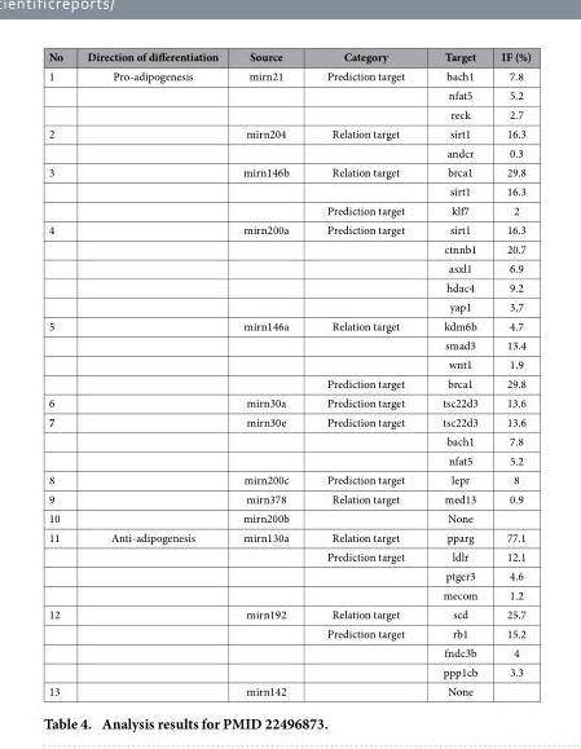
<table><thead><tr><td>No</td><td>Direction of differentiation</td><td>Source</td><td>Category</td><td>Target</td><td>IF (%)</td></tr></thead><tbody><tr><td rowspan="3">1</td><td>Pro-adipogenesis</td><td>mirn21</td><td>Prediction target</td><td>bach1</td><td>7.8</td></tr><tr><td></td><td></td><td></td><td>nfat5</td><td>5.2</td></tr><tr><td></td><td></td><td></td><td>reck</td><td>2.7</td></tr><tr><td rowspan="2">2</td><td></td><td>mirn204</td><td>Relation target</td><td>sirt1</td><td>16.3</td></tr><tr><td></td><td></td><td></td><td>andcr</td><td>0.3</td></tr><tr><td rowspan="3">3</td><td></td><td>mirn146b</td><td>Relation target</td><td>brca1</td><td>29.8</td></tr><tr><td></td><td></td><td></td><td>sirt1</td><td>16.3</td></tr><tr><td></td><td></td><td>Prediction target</td><td>klf7</td><td>2</td></tr><tr><td rowspan="5">4</td><td></td><td>mirn200a</td><td>Prediction target</td><td>sirt1</td><td>16.3</td></tr><tr><td></td><td></td><td></td><td>ctnnb1</td><td>20.7</td></tr><tr><td></td><td></td><td></td><td>asxl1</td><td>6.9</td></tr><tr><td></td><td></td><td></td><td>hdac4</td><td>9.2</td></tr><tr><td></td><td></td><td></td><td>yap1</td><td>3,7</td></tr><tr><td rowspan="4">5</td><td></td><td>mirn146a</td><td>Relation target</td><td>kdm6b</td><td>4.7</td></tr><tr><td></td><td></td><td></td><td>smad3</td><td>13.4</td></tr><tr><td></td><td></td><td></td><td>wnt1</td><td>1.9</td></tr><tr><td></td><td></td><td>Prediction target</td><td>brca1</td><td>29.8</td></tr><tr><td>6</td><td></td><td>mirn30a</td><td>Prediction target</td><td>tsc22d3</td><td>13.6</td></tr><tr><td rowspan="3">7</td><td></td><td>mirn30e</td><td>Prediction target</td><td>tsc22d3</td><td>13.6</td></tr><tr><td></td><td></td><td></td><td>bach1</td><td>7.8</td></tr><tr><td></td><td></td><td></td><td>nfat5</td><td>5.2</td></tr><tr><td>8</td><td></td><td>mirn200c</td><td>Prediction target</td><td>lepr</td><td>8</td></tr><tr><td>9</td><td></td><td>mirn378</td><td>Relation target</td><td>med13</td><td>0.9</td></tr><tr><td>10</td><td></td><td>mirn200b</td><td></td><td>None</td><td></td></tr><tr><td rowspan="4">11</td><td>Anti-adipogenesis</td><td>mirn130a</td><td>Relation target</td><td>pparg</td><td>77.1</td></tr><tr><td></td><td></td><td>Prediction target</td><td>ldlr</td><td>12.1</td></tr><tr><td></td><td></td><td></td><td>ptger3</td><td>4.6</td></tr><tr><td></td><td></td><td></td><td>mecom</td><td>1.2</td></tr><tr><td rowspan="4">12</td><td></td><td>mirn192</td><td>Relation target</td><td>scd</td><td>25.7</td></tr><tr><td></td><td></td><td>Prediction target</td><td>rb1</td><td>15.2</td></tr><tr><td></td><td></td><td></td><td>fndc3b</td><td>4</td></tr><tr><td></td><td></td><td></td><td>ppp1cb</td><td>3.3</td></tr><tr><td>13</td><td></td><td>mirn142</td><td></td><td>None</td><td></td></tr></tbody></table>